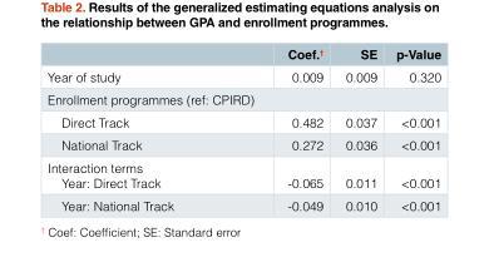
<table><thead><tr><td></td><td>Coef.<sup>†</sup></td><td>SE</td><td>p-Value</td></tr></thead><tbody><tr><td>Year of study</td><td>0.009</td><td>0.009</td><td>0.320</td></tr><tr><td colspan="4">Enrollment programmes (ref: CPIRD)</td></tr><tr><td>Direct Track</td><td>0.482</td><td>0.037</td><td>&lt;0.001</td></tr><tr><td>National Track</td><td>0.272</td><td>0.036</td><td>&lt;0.001</td></tr><tr><td>Interaction terms Year: Direct Track</td><td>-0.065</td><td>0.011</td><td>&lt;0.001</td></tr><tr><td>Year: National Track</td><td>-0.049</td><td>0.010</td><td>&lt;0.001</td></tr></tbody></table>